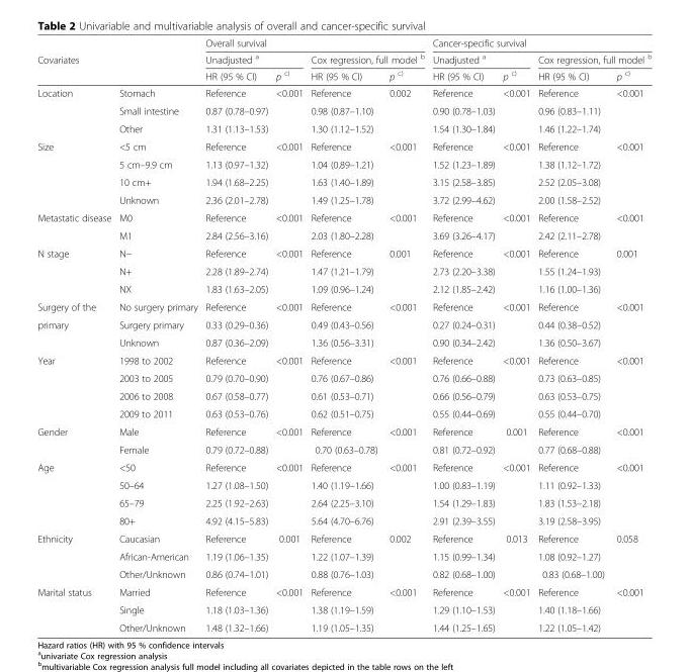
<table><thead><tr><td rowspan="3">Covariates</td><td rowspan="3"></td><td colspan="4">Overall survival</td><td colspan="4">Cancer-specific survival</td></tr><tr><td colspan="2">Unadjusted <sup>a</sup></td><td colspan="2">Cox regression, full model <sup>b</sup></td><td colspan="2">Unadjusted <sup>a</sup></td><td colspan="2">Cox regression, full model <sup>b</sup></td></tr><tr><td>HR (95 % CI)</td><td>p <sup>c)</sup></td><td>HR (95 % CI)</td><td>p <sup>c)</sup></td><td>HR (95 % CI)</td><td>p <sup>c)</sup></td><td>HR (95 % CI)</td><td>p <sup>c)</sup></td></tr></thead><tbody><tr><td rowspan="3">Location</td><td>Stomach</td><td>Reference</td><td>&lt;0.001</td><td>Reference</td><td>0.002</td><td>Reference</td><td>&lt;0.001</td><td>Reference</td><td>&lt;0.001</td></tr><tr><td>Small intestine</td><td>0.87 (0.78–0.97)</td><td></td><td>0.98 (0.87–1.10)</td><td></td><td>0.90 (0.78–1.03)</td><td></td><td>0.96 (0.83–1.11)</td><td></td></tr><tr><td>Other</td><td>1.31 (1.13–1.53)</td><td></td><td>1.30 (1.12–1.52)</td><td></td><td>1.54 (1.30–1.84)</td><td></td><td>1.46 (1.22–1.74)</td><td></td></tr><tr><td rowspan="4">Size</td><td>&lt;5 cm</td><td>Reference</td><td>&lt;0.001</td><td>Reference</td><td>&lt;0.001</td><td>Reference</td><td>&lt;0.001</td><td>Reference</td><td>&lt;0.001</td></tr><tr><td>5 cm–9.9 cm</td><td>1.13 (0.97–1.32)</td><td></td><td>1.04 (0.89–1.21)</td><td></td><td>1.52 (1.23–1.89)</td><td></td><td>1.38 (1.12–1.72)</td><td></td></tr><tr><td>10 cm+</td><td>1.94 (1.68–2.25)</td><td></td><td>1.63 (1.40–1.89)</td><td></td><td>3.15 (2.58–3.85)</td><td></td><td>2.52 (2.05–3.08)</td><td></td></tr><tr><td>Unknown</td><td>2.36 (2.01–2.78)</td><td></td><td>1.49 (1.25–1.78)</td><td></td><td>3.72 (2.99–4.62)</td><td></td><td>2.00 (1.58–2.52)</td><td></td></tr><tr><td rowspan="2">Metastatic disease</td><td>M0</td><td>Reference</td><td>&lt;0.001</td><td>Reference</td><td>&lt;0.001</td><td>Reference</td><td>&lt;0.001</td><td>Reference</td><td>&lt;0.001</td></tr><tr><td>M1</td><td>2.84 (2.56–3.16)</td><td></td><td>2.03 (1.80–2.28)</td><td></td><td>3.69 (3.26–4.17)</td><td></td><td>2.42 (2.11–2.78)</td><td></td></tr><tr><td rowspan="3">N stage</td><td>N−</td><td>Reference</td><td>&lt;0.001</td><td>Reference</td><td>0.001</td><td>Reference</td><td>&lt;0.001</td><td>Reference</td><td>0.001</td></tr><tr><td>N+</td><td>2.28 (1.89–2.74)</td><td></td><td>1.47 (1.21–1.79)</td><td></td><td>2.73 (2.20–3.38)</td><td></td><td>1.55 (1.24–1.93)</td><td></td></tr><tr><td>NX</td><td>1.83 (1.63–2.05)</td><td></td><td>1.09 (0.96–1.24)</td><td></td><td>2.12 (1.85–2.42)</td><td></td><td>1.16 (1.00–1.36)</td><td></td></tr><tr><td>Surgery of the</td><td>No surgery primary</td><td>Reference</td><td>&lt;0.001</td><td>Reference</td><td>&lt;0.001</td><td>Reference</td><td>&lt;0.001</td><td>Reference</td><td>&lt;0.001</td></tr><tr><td rowspan="2">primary</td><td>Surgery primary</td><td>0.33 (0.29–0.36)</td><td></td><td>0.49 (0.43–0.56)</td><td></td><td>0.27 (0.24–0.31)</td><td></td><td>0.44 (0.38–0.52)</td><td></td></tr><tr><td>Unknown</td><td>0.87 (0.36–2.09)</td><td></td><td>1.36 (0.56–3.31)</td><td></td><td>0.90 (0.34–2.42)</td><td></td><td>1.36 (0.50–3.67)</td><td></td></tr><tr><td rowspan="4">Year</td><td>1998 to 2002</td><td>Reference</td><td>&lt;0.001</td><td>Reference</td><td>&lt;0.001</td><td>Reference</td><td>&lt;0.001</td><td>Reference</td><td>&lt;0.001</td></tr><tr><td>2003 to 2005</td><td>0.79 (0.70–0.90)</td><td></td><td>0.76 (0.67–0.86)</td><td></td><td>0.76 (0.66–0.88)</td><td></td><td>0.73 (0.63–0.85)</td><td></td></tr><tr><td>2006 to 2008</td><td>0.67 (0.58–0.77)</td><td></td><td>0.61 (0.53–0.71)</td><td></td><td>0.66 (0.56–0.79)</td><td></td><td>0.63 (0.53–0.75)</td><td></td></tr><tr><td>2009 to 2011</td><td>0.63 (0.53–0.76)</td><td></td><td>0.62 (0.51–0.75)</td><td></td><td>0.55 (0.44–0.69)</td><td></td><td>0.55 (0.44–0.70)</td><td></td></tr><tr><td rowspan="2">Gender</td><td>Male</td><td>Reference</td><td>&lt;0.001</td><td>Reference</td><td>&lt;0.001</td><td>Reference</td><td>0.001</td><td>Reference</td><td>&lt;0.001</td></tr><tr><td>Female</td><td>0.79 (0.72–0.88)</td><td></td><td>0.70 (0.63–0.78)</td><td></td><td>0.81 (0.72–0.92)</td><td></td><td>0.77 (0.68–0.88)</td><td></td></tr><tr><td rowspan="4">Age</td><td>&lt;50</td><td>Reference</td><td>&lt;0.001</td><td>Reference</td><td>&lt;0.001</td><td>Reference</td><td>&lt;0.001</td><td>Reference</td><td>&lt;0.001</td></tr><tr><td>50–64</td><td>1.27 (1.08–1.50)</td><td></td><td>1.40 (1.19–1.66)</td><td></td><td>1.00 (0.83–1.19)</td><td></td><td>1.11 (0.92–1.33)</td><td></td></tr><tr><td>65–79</td><td>2.25 (1.92–2.63)</td><td></td><td>2.64 (2.25–3.10)</td><td></td><td>1.54 (1.29–1.83)</td><td></td><td>1.83 (1.53–2.18)</td><td></td></tr><tr><td>80+</td><td>4.92 (4.15–5.83)</td><td></td><td>5.64 (4.70–6.76)</td><td></td><td>2.91 (2.39–3.55)</td><td></td><td>3.19 (2.58–3.95)</td><td></td></tr><tr><td rowspan="3">Ethnicity</td><td>Caucasian</td><td>Reference</td><td>0.001</td><td>Reference</td><td>0.002</td><td>Reference</td><td>0.013</td><td>Reference</td><td>0.058</td></tr><tr><td>African-American</td><td>1.19 (1.06–1.35)</td><td></td><td>1.22 (1.07–1.39)</td><td></td><td>1.15 (0.99–1.34)</td><td></td><td>1.08 (0.92–1.27)</td><td></td></tr><tr><td>Other/Unknown</td><td>0.86 (0.74–1.01)</td><td></td><td>0.88 (0.76–1.03)</td><td></td><td>0.82 (0.68–1.00)</td><td></td><td>0.83 (0.68–1.00)</td><td></td></tr><tr><td rowspan="3">Marital status</td><td>Married</td><td>Reference</td><td>&lt;0.001</td><td>Reference</td><td>&lt;0.001</td><td>Reference</td><td>&lt;0.001</td><td>Reference</td><td>&lt;0.001</td></tr><tr><td>Single</td><td>1.18 (1.03–1.36)</td><td></td><td>1.38 (1.19–1.59)</td><td></td><td>1.29 (1.10–1.53)</td><td></td><td>1.40 (1.18–1.66)</td><td></td></tr><tr><td>Other/Unknown</td><td>1.48 (1.32–1.66)</td><td></td><td>1.19 (1.05–1.35)</td><td></td><td>1.44 (1.25–1.65)</td><td></td><td>1.22 (1.05–1.42)</td><td></td></tr></tbody></table>